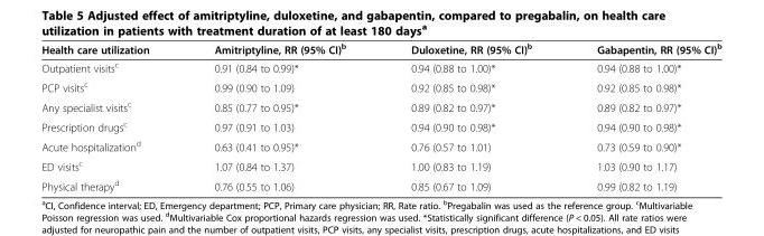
<table><thead><tr><td>Health care utilization</td><td>Amitriptyline, RR (95% CI)<sup>b</sup></td><td>Duloxetine, RR (95% CI)<sup>b</sup></td><td>Gabapentin, RR (95% CI)<sup>b</sup></td></tr></thead><tbody><tr><td>Outpatient visits<sup>c</sup></td><td>0.91 (0.84 to 0.99)*</td><td>0.94 (0.88 to 1.00)*</td><td>0.94 (0.88 to 1.00)*</td></tr><tr><td>PCP visits<sup>c</sup></td><td>0.99 (0.90 to 1.09)</td><td>0.92 (0.85 to 0.98)*</td><td>0.92 (0.85 to 0.98)*</td></tr><tr><td>Any specialist visits<sup>c</sup></td><td>0.85 (0.77 to 0.95)*</td><td>0.89 (0.82 to 0.97)*</td><td>0.89 (0.82 to 0.97)*</td></tr><tr><td>Prescription drugs<sup>c</sup></td><td>0.97 (0.91 to 1.03)</td><td>0.94 (0.90 to 0.98)*</td><td>0.94 (0.90 to 0.98)*</td></tr><tr><td>Acute hospitalization<sup>d</sup></td><td>0.63 (0.41 to 0.95)*</td><td>0.76 (0.57 to 1.01)</td><td>0.73 (0.59 to 0.90)*</td></tr><tr><td>ED visits<sup>c</sup></td><td>1.07 (0.84 to 1.37)</td><td>1.00 (0.83 to 1.19)</td><td>1.03 (0.90 to 1.17)</td></tr><tr><td>Physical therapy<sup>d</sup></td><td>0.76 (0.55 to 1.06)</td><td>0.85 (0.67 to 1.09)</td><td>0.99 (0.82 to 1.19)</td></tr></tbody></table>